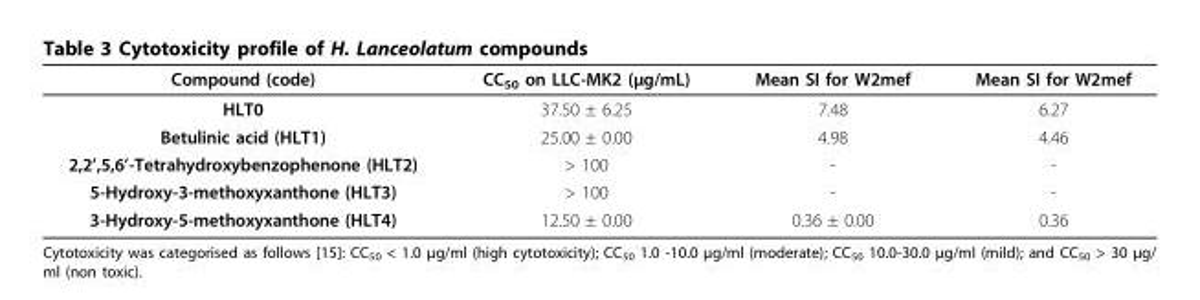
<table><thead><tr><td>Compound (code)</td><td>CC<sub>50</sub> on LLC-MK2 (μg/mL)</td><td>Mean SI for W2mef</td><td>Mean SI for W2mef</td></tr></thead><tbody><tr><td>HLT0</td><td>37.50 ± 6.25</td><td>7.48</td><td>6.27</td></tr><tr><td>Betulinic acid (HLT1)</td><td>25.00 ± 0.00</td><td>4.98</td><td>4.46</td></tr><tr><td>2,2’,5,6’-Tetrahydroxybenzophenone (HLT2)</td><td>&gt; 100</td><td>-</td><td>-</td></tr><tr><td>5-Hydroxy-3-methoxyxanthone (HLT3)</td><td>&gt; 100</td><td>-</td><td>-</td></tr><tr><td>3-Hydroxy-5-methoxyxanthone (HLT4)</td><td>12.50 ± 0.00</td><td>0.36 ± 0.00</td><td>0.36</td></tr></tbody></table>